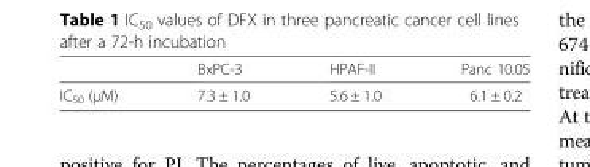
<table><thead><tr><td></td><td>BxPC-3</td><td>HPAF-II</td><td>Panc 10.05</td></tr></thead><tbody><tr><td>IC<sub>50</sub> (μM)</td><td>7.3 ± 1.0</td><td>5.6 ± 1.0</td><td>6.1 ± 0.2</td></tr></tbody></table>